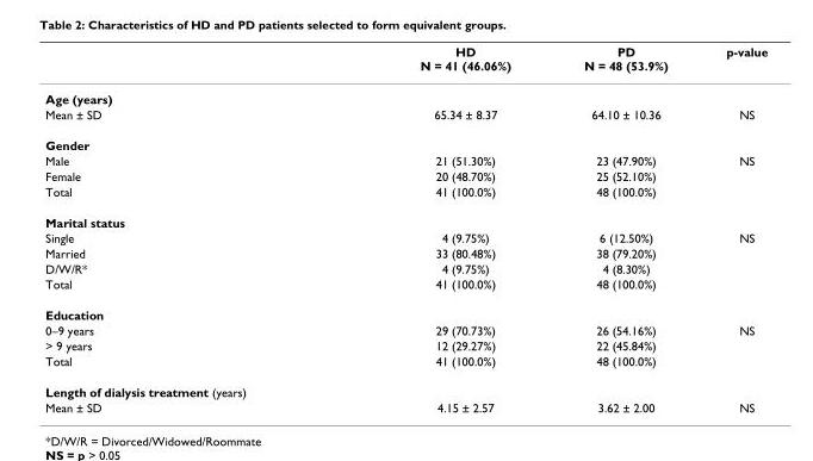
<table><thead><tr><td></td><td>HD N = 41 (46.06%)</td><td>PD N = 48 (53.9%)</td><td>p-value</td></tr></thead><tbody><tr><td colspan="4">Age (years)</td></tr><tr><td>Mean ± SD</td><td>65.34 ± 8.37</td><td>64.10 ± 10.36</td><td>NS</td></tr><tr><td colspan="4">Gender</td></tr><tr><td>Male</td><td>21 (51.30%)</td><td>23 (47.90%)</td><td>NS</td></tr><tr><td>Female</td><td>20 (48.70%)</td><td>25 (52.10%)</td><td></td></tr><tr><td>Total</td><td>41 (100.0%)</td><td>48 (100.0%)</td><td></td></tr><tr><td colspan="4">Marital status</td></tr><tr><td>Single</td><td>4 (9.75%)</td><td>6 (12.50%)</td><td>NS</td></tr><tr><td>Married</td><td>33 (80.48%)</td><td>38 (79.20%)</td><td></td></tr><tr><td>D/W/R*</td><td>4 (9.75%)</td><td>4 (8.30%)</td><td></td></tr><tr><td>Total</td><td>41 (100.0%)</td><td>48 (100.0%)</td><td></td></tr><tr><td colspan="4">Education</td></tr><tr><td>0–9 years</td><td>29 (70.73%)</td><td>26 (54.16%)</td><td>NS</td></tr><tr><td>&gt; 9 years</td><td>12 (29.27%)</td><td>22 (45.84%)</td><td></td></tr><tr><td>Total</td><td>41 (100.0%)</td><td>48 (100.0%)</td><td></td></tr><tr><td colspan="4">Length of dialysis treatment (years)</td></tr><tr><td>Mean ± SD</td><td>4.15 ± 2.57</td><td>3.62 ± 2.00</td><td>NS</td></tr></tbody></table>